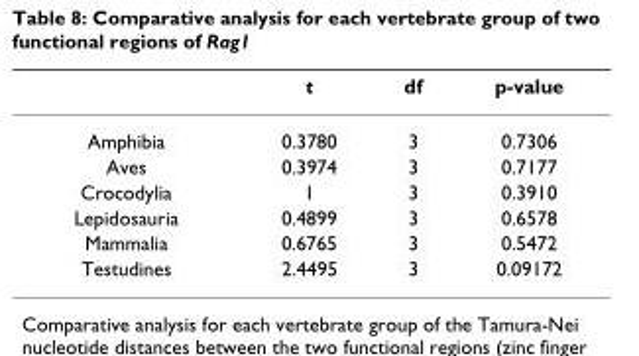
<table><thead><tr><td></td><td>t</td><td>df</td><td>p-value</td></tr></thead><tbody><tr><td>Amphibia</td><td>0.3780</td><td>3</td><td>0.7306</td></tr><tr><td>Aves</td><td>0.3974</td><td>3</td><td>0.7177</td></tr><tr><td>Crocodylia</td><td>1</td><td>3</td><td>0.3910</td></tr><tr><td>Lepidosauria</td><td>0.4899</td><td>3</td><td>0.6578</td></tr><tr><td>Mammalia</td><td>0.6765</td><td>3</td><td>0.5472</td></tr><tr><td>Testudines</td><td>2.4495</td><td>3</td><td>0.09172</td></tr></tbody></table>